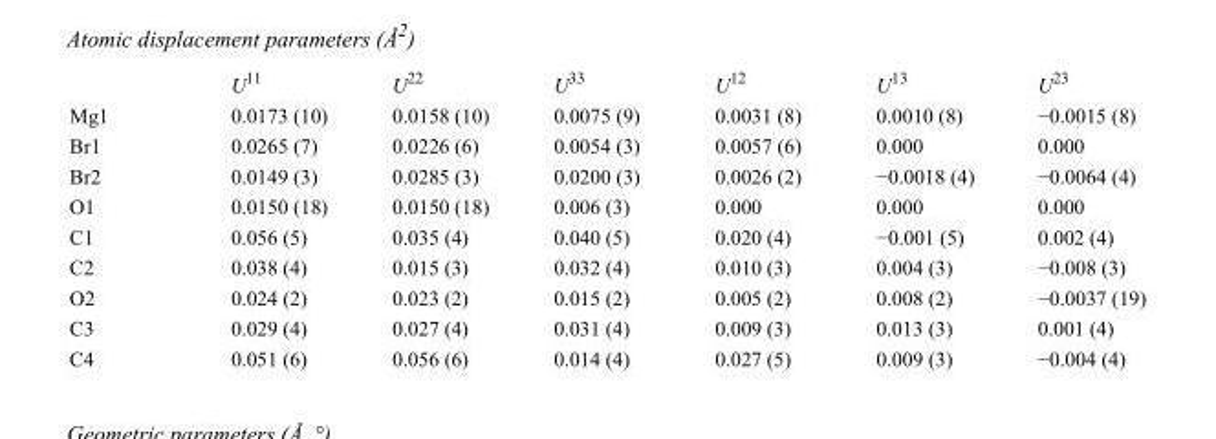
<table><thead><tr><td></td><td>U<sup>11</sup></td><td>U<sup>22</sup></td><td>U<sup>33</sup></td><td>U<sup>12</sup></td><td>U<sup>13</sup></td><td>U<sup>23</sup></td></tr></thead><tbody><tr><td>Mg1</td><td>0.0173 (10)</td><td>0.0158 (10)</td><td>0.0075 (9)</td><td>0.0031 (8)</td><td>0.0010 (8)</td><td>−0.0015 (8)</td></tr><tr><td>Br1</td><td>0.0265 (7)</td><td>0.0226 (6)</td><td>0.0054 (3)</td><td>0.0057 (6)</td><td>0.000</td><td>0.000</td></tr><tr><td>Br2</td><td>0.0149 (3)</td><td>0.0285 (3)</td><td>0.0200 (3)</td><td>0.0026 (2)</td><td>−0.0018 (4)</td><td>−0.0064 (4)</td></tr><tr><td>O1</td><td>0.0150 (18)</td><td>0.0150 (18)</td><td>0.006 (3)</td><td>0.000</td><td>0.000</td><td>0.000</td></tr><tr><td>C1</td><td>0.056 (5)</td><td>0.035 (4)</td><td>0.040 (5)</td><td>0.020 (4)</td><td>−0.001 (5)</td><td>0.002 (4)</td></tr><tr><td>C2</td><td>0.038 (4)</td><td>0.015 (3)</td><td>0.032 (4)</td><td>0.010 (3)</td><td>0.004 (3)</td><td>−0.008 (3)</td></tr><tr><td>O2</td><td>0.024 (2)</td><td>0.023 (2)</td><td>0.015 (2)</td><td>0.005 (2)</td><td>0.008 (2)</td><td>−0.0037 (19)</td></tr><tr><td>C3</td><td>0.029 (4)</td><td>0.027 (4)</td><td>0.031 (4)</td><td>0.009 (3)</td><td>0.013 (3)</td><td>0.001 (4)</td></tr><tr><td>C4</td><td>0.051 (6)</td><td>0.056 (6)</td><td>0.014 (4)</td><td>0.027 (5)</td><td>0.009 (3)</td><td>−0.004 (4)</td></tr></tbody></table>